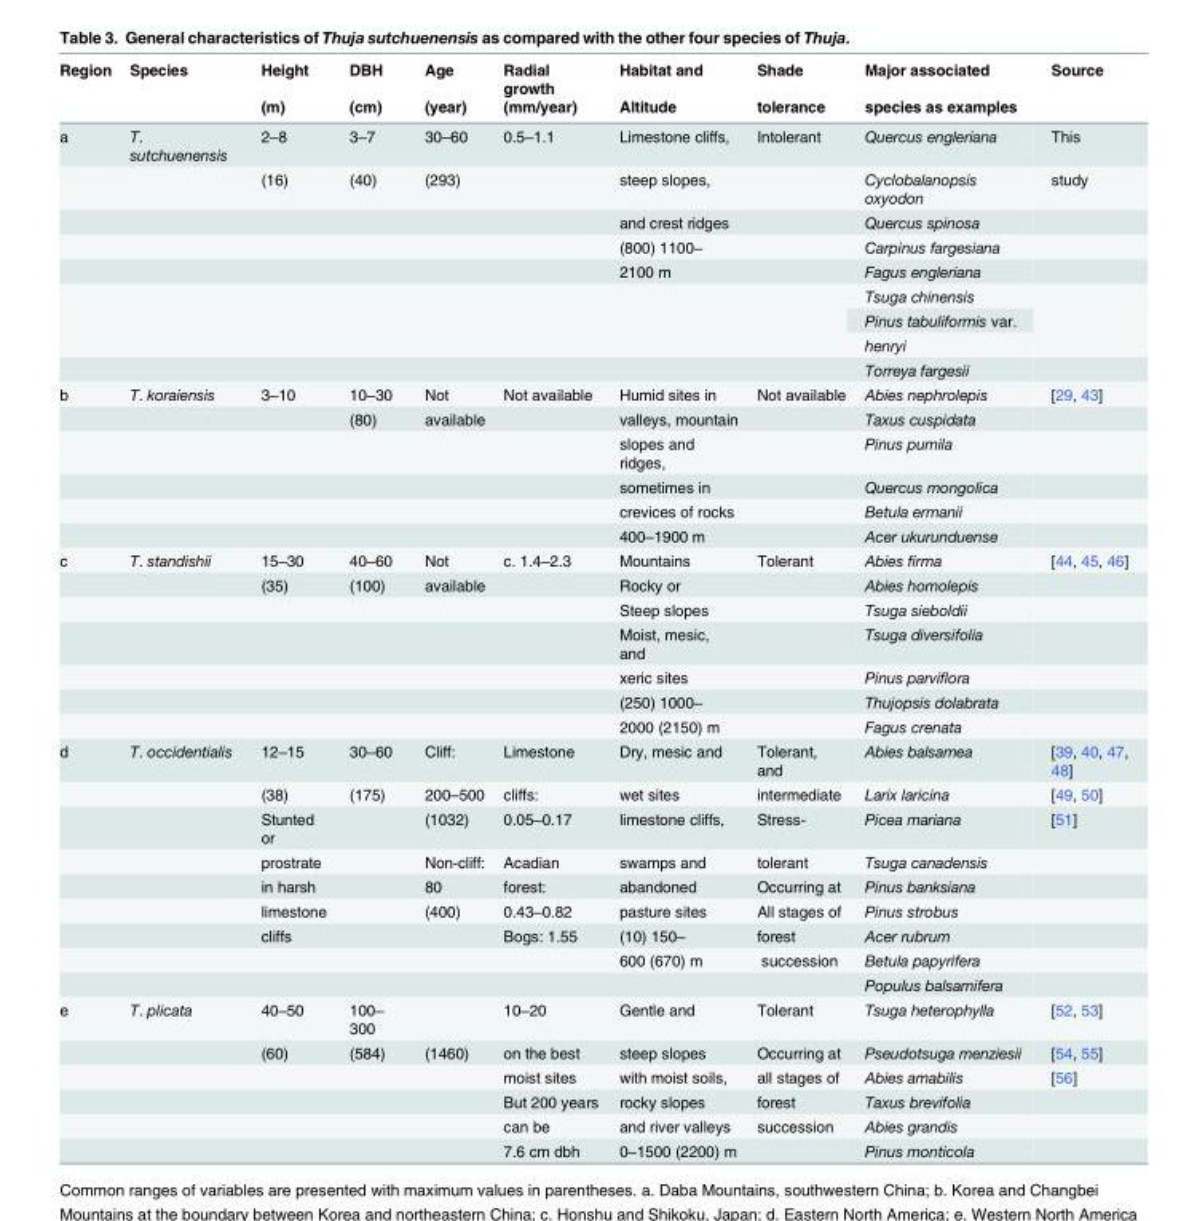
<table><thead><tr><td rowspan="2">Region</td><td rowspan="2">Species</td><td rowspan="2">Height (m)</td><td rowspan="2">DBH (cm)</td><td rowspan="2">Age (year)</td><td rowspan="2">Radial growth (mm/year)</td><td rowspan="2">Habitat and Altitude</td><td rowspan="2">Shade tolerance</td><td rowspan="2">Major associated species as examples</td><td rowspan="2">Source</td></tr><tr></tr></thead><tbody><tr><td rowspan="9">a</td><td>T. sutchuenensis</td><td>2‒8</td><td>3‒7</td><td>30–60</td><td>0.5‒1.1</td><td>Limestone cliffs,</td><td>Intolerant</td><td>Quercus engleriana</td><td>This</td></tr><tr><td></td><td>(16)</td><td>(40)</td><td>(293)</td><td></td><td>steep slopes,</td><td></td><td>Cyclobalanopsis oxyodon</td><td>study</td></tr><tr><td></td><td></td><td></td><td></td><td></td><td>and crest ridges</td><td></td><td>Quercus spinosa</td><td></td></tr><tr><td></td><td></td><td></td><td></td><td></td><td>(800) 1100‒</td><td></td><td>Carpinus fargesiana</td><td></td></tr><tr><td></td><td></td><td></td><td></td><td></td><td>2100 m</td><td></td><td>Fagus engleriana</td><td></td></tr><tr><td rowspan="3"></td><td rowspan="3"></td><td rowspan="3"></td><td rowspan="3"></td><td rowspan="3"></td><td rowspan="3"></td><td rowspan="3"></td><td>Tsuga chinensis</td><td rowspan="3"></td></tr><tr><td>Pinus tabuliformis var.</td></tr><tr><td>henryi</td></tr><tr><td></td><td></td><td></td><td></td><td></td><td></td><td></td><td>Torreya fargesii</td><td></td></tr><tr><td rowspan="6">b</td><td>T. koraiensis</td><td>3‒10</td><td>10‒30</td><td>Not</td><td>Not available</td><td>Humid sites in</td><td>Not available</td><td>Abies nephrolepis</td><td>[29, 43]</td></tr><tr><td></td><td></td><td>(80)</td><td>available</td><td></td><td>valleys, mountain</td><td></td><td>Taxus cuspidata</td><td></td></tr><tr><td></td><td></td><td></td><td></td><td></td><td>slopes and ridges,</td><td></td><td>Pinus pumila</td><td></td></tr><tr><td></td><td></td><td></td><td></td><td></td><td>sometimes in</td><td></td><td>Quercus mongolica</td><td></td></tr><tr><td></td><td></td><td></td><td></td><td></td><td>crevices of rocks</td><td></td><td>Betula ermanii</td><td></td></tr><tr><td></td><td></td><td></td><td></td><td></td><td>400–1900 m</td><td></td><td>Acer ukurunduense</td><td></td></tr><tr><td rowspan="7">c</td><td>T. standishii</td><td>15‒30</td><td>40‒60</td><td>Not</td><td>c. 1.4‒2.3</td><td>Mountains</td><td>Tolerant</td><td>Abies firma</td><td>[44, 45, 46]</td></tr><tr><td></td><td>(35)</td><td>(100)</td><td>available</td><td></td><td>Rocky or</td><td></td><td>Abies homolepis</td><td></td></tr><tr><td></td><td></td><td></td><td></td><td></td><td>Steep slopes</td><td></td><td>Tsuga sieboldii</td><td></td></tr><tr><td></td><td></td><td></td><td></td><td></td><td>Moist, mesic, and</td><td></td><td>Tsuga diversifolia</td><td></td></tr><tr><td></td><td></td><td></td><td></td><td></td><td>xeric sites</td><td></td><td>Pinus parviflora</td><td></td></tr><tr><td></td><td></td><td></td><td></td><td></td><td>(250) 1000‒</td><td></td><td>Thujopsis dolabrata</td><td></td></tr><tr><td></td><td></td><td></td><td></td><td></td><td>2000 (2150) m</td><td></td><td>Fagus crenata</td><td></td></tr><tr><td rowspan="9">d</td><td>T. occidentialis</td><td>12‒15</td><td>30‒60</td><td>Cliff:</td><td>Limestone</td><td>Dry, mesic and</td><td>Tolerant, and</td><td>Abies balsamea</td><td>[39, 40, 47, 48]</td></tr><tr><td></td><td>(38)</td><td>(175)</td><td>200–500</td><td>cliffs:</td><td>wet sites</td><td>intermediate</td><td>Larix laricina</td><td>[49, 50]</td></tr><tr><td></td><td>Stunted or</td><td></td><td>(1032)</td><td>0.05‒0.17</td><td>limestone cliffs,</td><td>Stress-</td><td>Picea mariana</td><td>[51]</td></tr><tr><td></td><td>prostrate</td><td></td><td>Non-cliff:</td><td>Acadian</td><td>swamps and</td><td>tolerant</td><td>Tsuga canadensis</td><td></td></tr><tr><td></td><td>in harsh</td><td></td><td>80</td><td>forest:</td><td>abandoned</td><td>Occurring at</td><td>Pinus banksiana</td><td></td></tr><tr><td></td><td>limestone</td><td></td><td>(400)</td><td>0.43‒0.82</td><td>pasture sites</td><td>All stages of</td><td>Pinus strobus</td><td></td></tr><tr><td></td><td>cliffs</td><td></td><td></td><td>Bogs: 1.55</td><td>(10) 150‒</td><td>forest</td><td>Acer rubrum</td><td></td></tr><tr><td></td><td></td><td></td><td></td><td></td><td>600 (670) m</td><td>succession</td><td>Betula papyrifera</td><td></td></tr><tr><td></td><td></td><td></td><td></td><td></td><td></td><td></td><td>Populus balsamifera</td><td></td></tr><tr><td rowspan="6">e</td><td>T. plicata</td><td>40‒50</td><td>100‒ 300</td><td></td><td>10‒20</td><td>Gentle and</td><td>Tolerant</td><td>Tsuga heterophylla</td><td>[52, 53]</td></tr><tr><td></td><td>(60)</td><td>(584)</td><td>(1460)</td><td>on the best</td><td>steep slopes</td><td>Occurring at</td><td>Pseudotsuga menziesii</td><td>[54, 55]</td></tr><tr><td></td><td></td><td></td><td></td><td>moist sites</td><td>with moist soils,</td><td>all stages of</td><td>Abies amabilis</td><td>[56]</td></tr><tr><td></td><td></td><td></td><td></td><td>But 200 years</td><td>rocky slopes</td><td>forest</td><td>Taxus brevifolia</td><td></td></tr><tr><td></td><td></td><td></td><td></td><td>can be</td><td>and river valleys</td><td>succession</td><td>Abies grandis</td><td></td></tr><tr><td></td><td></td><td></td><td></td><td>7.6 cm dbh</td><td>0–1500 (2200) m</td><td></td><td>Pinus monticola</td><td></td></tr></tbody></table>